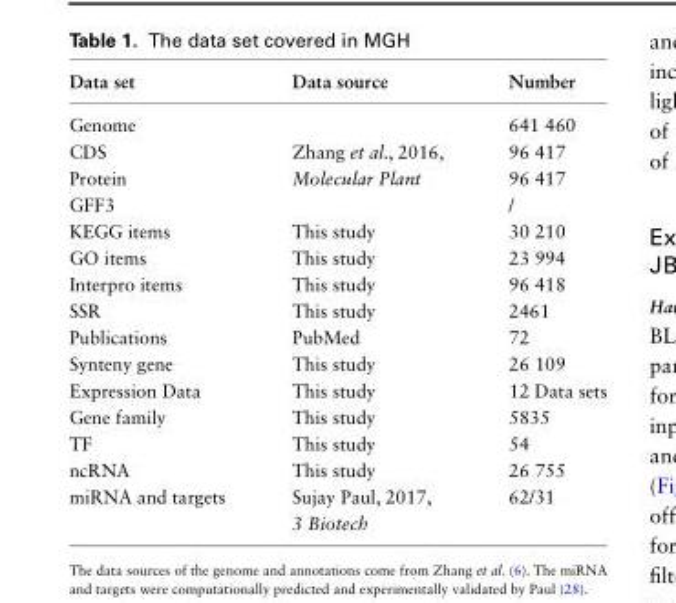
<table><thead><tr><td>Data set</td><td>Data source</td><td>Number</td></tr></thead><tbody><tr><td>Genome</td><td rowspan="4">Zhang et al., 2016, Molecular Plant</td><td>641 460</td></tr><tr><td>CDS</td><td>96 417</td></tr><tr><td>Protein</td><td>96 417</td></tr><tr><td>GFF3</td><td>/</td></tr><tr><td>KEGG items</td><td>This study</td><td>30 210</td></tr><tr><td>GO items</td><td>This study</td><td>23 994</td></tr><tr><td>Interpro items</td><td>This study</td><td>96 418</td></tr><tr><td>SSR</td><td>This study</td><td>2461</td></tr><tr><td>Publications</td><td>PubMed</td><td>72</td></tr><tr><td>Synteny gene</td><td>This study</td><td>26 109</td></tr><tr><td>Expression Data</td><td>This study</td><td>12 Data sets</td></tr><tr><td>Gene family</td><td>This study</td><td>5835</td></tr><tr><td>TF</td><td>This study</td><td>54</td></tr><tr><td>ncRNA</td><td>This study</td><td>26 755</td></tr><tr><td>miRNA and targets</td><td>Sujay Paul, 2017, 3 Biotech</td><td>62/31</td></tr></tbody></table>